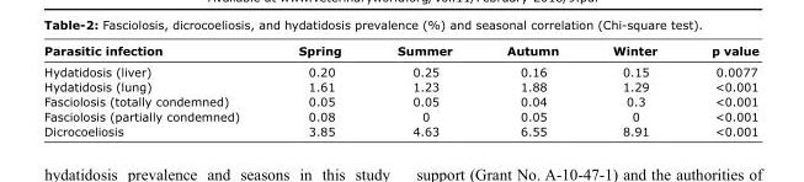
<table><thead><tr><td>Parasitic infection</td><td>Spring</td><td>Summer</td><td>Autumn</td><td>Winter</td><td>p value</td></tr></thead><tbody><tr><td>Hydatidosis (liver)</td><td>0.20</td><td>0.25</td><td>0.16</td><td>0.15</td><td>0.0077</td></tr><tr><td>Hydatidosis (lung)</td><td>1.61</td><td>1.23</td><td>1.88</td><td>1.29</td><td>&lt;0.001</td></tr><tr><td>Fasciolosis (totally condemned)</td><td>0.05</td><td>0.05</td><td>0.04</td><td>0.3</td><td>&lt;0.001</td></tr><tr><td>Fasciolosis (partially condemned)</td><td>0.08</td><td>0</td><td>0.05</td><td>0</td><td>&lt;0.001</td></tr><tr><td>Dicrocoeliosis</td><td>3.85</td><td>4.63</td><td>6.55</td><td>8.91</td><td>&lt;0.001</td></tr></tbody></table>